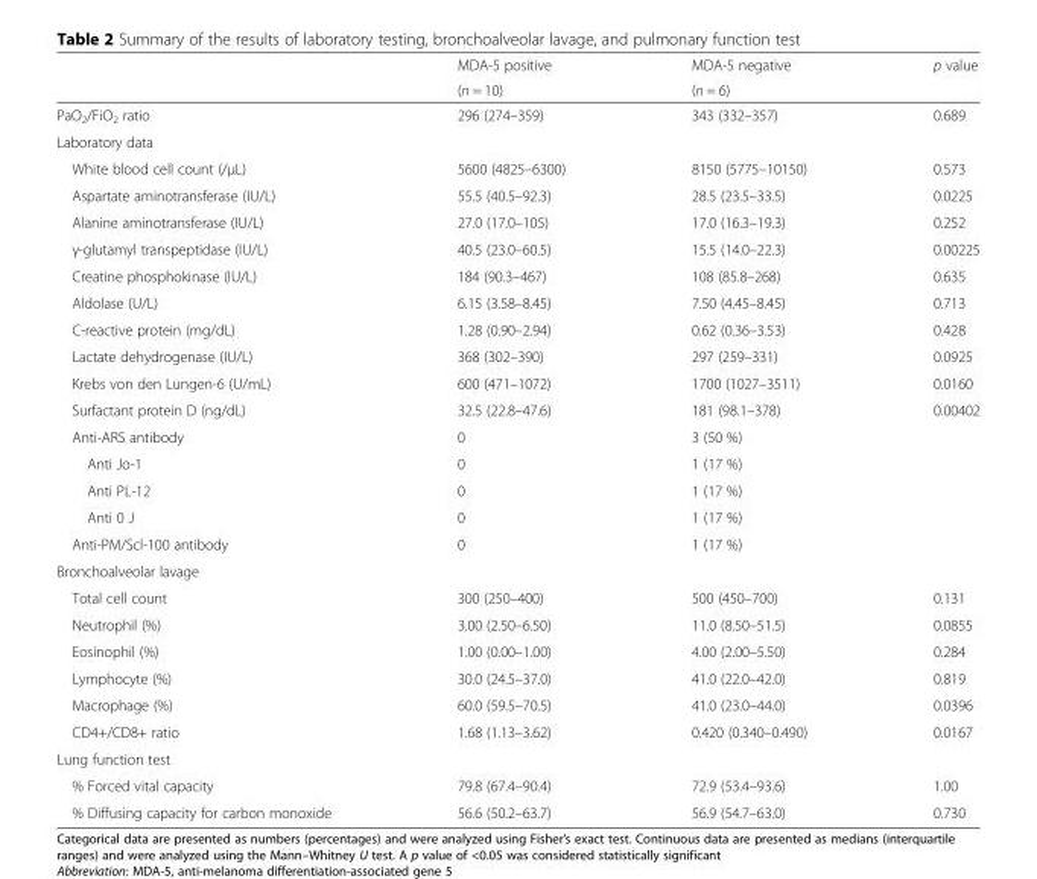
<table><thead><tr><td rowspan="2"></td><td rowspan="2">MDA-5 positive (n = 10)</td><td rowspan="2">MDA-5 negative (n = 6)</td><td rowspan="2">p value</td></tr><tr></tr></thead><tbody><tr><td>PaO<sub>2</sub>/FiO<sub>2</sub> ratio</td><td>296 (274–359)</td><td>343 (332–357)</td><td>0.689</td></tr><tr><td colspan="4">Laboratory data</td></tr><tr><td>White blood cell count (/μL)</td><td>5600 (4825–6300)</td><td>8150 (5775–10150)</td><td>0.573</td></tr><tr><td>Aspartate aminotransferase (IU/L)</td><td>55.5 (40.5–92.3)</td><td>28.5 (23.5–33.5)</td><td>0.0225</td></tr><tr><td>Alanine aminotransferase (IU/L)</td><td>27.0 (17.0–105)</td><td>17.0 (16.3–19.3)</td><td>0.252</td></tr><tr><td>γ-glutamyl transpeptidase (IU/L)</td><td>40.5 (23.0–60.5)</td><td>15.5 (14.0–22.3)</td><td>0.00225</td></tr><tr><td>Creatine phosphokinase (IU/L)</td><td>184 (90.3–467)</td><td>108 (85.8–268)</td><td>0.635</td></tr><tr><td>Aldolase (U/L)</td><td>6.15 (3.58–8.45)</td><td>7.50 (4.45–8.45)</td><td>0.713</td></tr><tr><td>C-reactive protein (mg/dL)</td><td>1.28 (0.90–2.94)</td><td>0.62 (0.36–3.53)</td><td>0.428</td></tr><tr><td>Lactate dehydrogenase (IU/L)</td><td>368 (302–390)</td><td>297 (259–331)</td><td>0.0925</td></tr><tr><td>Krebs von den Lungen-6 (U/mL)</td><td>600 (471–1072)</td><td>1700 (1027–3511)</td><td>0.0160</td></tr><tr><td>Surfactant protein D (ng/dL)</td><td>32.5 (22.8–47.6)</td><td>181 (98.1–378)</td><td>0.00402</td></tr><tr><td>Anti-ARS antibody</td><td>0</td><td>3 (50 %)</td><td></td></tr><tr><td>Anti Jo-1</td><td>0</td><td>1 (17 %)</td><td></td></tr><tr><td>Anti PL-12</td><td>0</td><td>1 (17 %)</td><td></td></tr><tr><td>Anti 0 J</td><td>0</td><td>1 (17 %)</td><td></td></tr><tr><td>Anti-PM/Scl-100 antibody</td><td>0</td><td>1 (17 %)</td><td></td></tr><tr><td colspan="4">Bronchoalveolar lavage</td></tr><tr><td>Total cell count</td><td>300 (250–400)</td><td>500 (450–700)</td><td>0.131</td></tr><tr><td>Neutrophil (%)</td><td>3.00 (2.50–6.50)</td><td>11.0 (8.50–51.5)</td><td>0.0855</td></tr><tr><td>Eosinophil (%)</td><td>1.00 (0.00–1.00)</td><td>4.00 (2.00–5.50)</td><td>0.284</td></tr><tr><td>Lymphocyte (%)</td><td>30.0 (24.5–37.0)</td><td>41.0 (22.0–42.0)</td><td>0.819</td></tr><tr><td>Macrophage (%)</td><td>60.0 (59.5–70.5)</td><td>41.0 (23.0–44.0)</td><td>0.0396</td></tr><tr><td>CD4+/CD8+ ratio</td><td>1.68 (1.13–3.62)</td><td>0.420 (0.340–0.490)</td><td>0.0167</td></tr><tr><td colspan="4">Lung function test</td></tr><tr><td>% Forced vital capacity</td><td>79.8 (67.4–90.4)</td><td>72.9 (53.4–93.6)</td><td>1.00</td></tr><tr><td>% Diffusing capacity for carbon monoxide</td><td>56.6 (50.2–63.7)</td><td>56.9 (54.7–63.0)</td><td>0.730</td></tr></tbody></table>